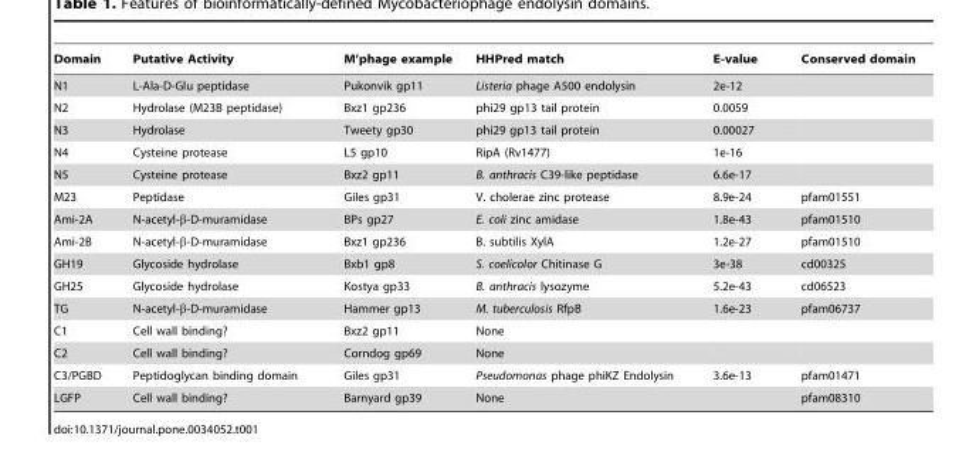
<table><thead><tr><td>Domain</td><td>Putative Activity</td><td>M’phage example</td><td>HHPred match</td><td>E-value</td><td>Conserved domain</td></tr></thead><tbody><tr><td>N1</td><td>L-Ala-D-Glu peptidase</td><td>Pukonvik gp11</td><td>Listeria phage A500 endolysin</td><td>2e-12</td><td></td></tr><tr><td>N2</td><td>Hydrolase (M23B peptidase)</td><td>Bxz1 gp236</td><td>phi29 gp13 tail protein</td><td>0.0059</td><td></td></tr><tr><td>N3</td><td>Hydrolase</td><td>Tweety gp30</td><td>phi29 gp13 tail protein</td><td>0.00027</td><td></td></tr><tr><td>N4</td><td>Cysteine protease</td><td>L5 gp10</td><td>RipA (Rv1477)</td><td>1e-16</td><td></td></tr><tr><td>N5</td><td>Cysteine protease</td><td>Bxz2 gp11</td><td>B. anthracis C39-like peptidase</td><td>6.6e-17</td><td></td></tr><tr><td>M23</td><td>Peptidase</td><td>Giles gp31</td><td>V. cholerae zinc protease</td><td>8.9e-24</td><td>pfam01551</td></tr><tr><td>Ami-2A</td><td>N-acetyl-β-D-muramidase</td><td>BPs gp27</td><td>E. coli zinc amidase</td><td>1.8e-43</td><td>pfam01510</td></tr><tr><td>Ami-2B</td><td>N-acetyl-β-D-muramidase</td><td>Bxz1 gp236</td><td>B. subtilis XylA</td><td>1.2e-27</td><td>pfam01510</td></tr><tr><td>GH19</td><td>Glycoside hydrolase</td><td>Bxb1 gp8</td><td>S. coelicolor Chitinase G</td><td>3e-38</td><td>cd00325</td></tr><tr><td>GH25</td><td>Glycoside hydrolase</td><td>Kostya gp33</td><td>B. anthracis lysozyme</td><td>5.2e-43</td><td>cd06523</td></tr><tr><td>TG</td><td>N-acetyl-β-D-muramidase</td><td>Hammer gp13</td><td>M. tuberculosis RfpB</td><td>1.6e-23</td><td>pfam06737</td></tr><tr><td>C1</td><td>Cell wall binding?</td><td>Bxz2 gp11</td><td>None</td><td></td><td></td></tr><tr><td>C2</td><td>Cell wall binding?</td><td>Corndog gp69</td><td>None</td><td></td><td></td></tr><tr><td>C3/PGBD</td><td>Peptidoglycan binding domain</td><td>Giles gp31</td><td>Pseudomonas phage phiKZ Endolysin</td><td>3.6e-13</td><td>pfam01471</td></tr><tr><td>LGFP</td><td>Cell wall binding?</td><td>Barnyard gp39</td><td>None</td><td></td><td>pfam08310</td></tr></tbody></table>